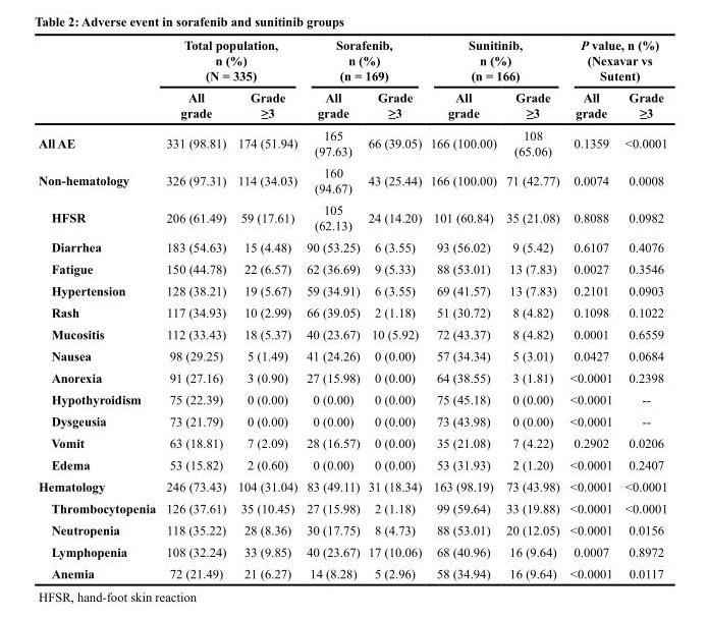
<table><thead><tr><td rowspan="2"></td><td colspan="2">Total population, n (%) (N = 335)</td><td colspan="2">Sorafenib, n (%) (n = 169)</td><td colspan="2">Sunitinib, n (%) (n = 166)</td><td colspan="2">P value, n (%) (Nexavar vs Sutent)</td></tr><tr><td>All grade</td><td>Grade ≥3</td><td>All grade</td><td>Grade ≥3</td><td>All grade</td><td>Grade ≥3</td><td>All grade</td><td>Grade ≥3</td></tr></thead><tbody><tr><td>All AE</td><td>331 (98.81)</td><td>174 (51.94)</td><td>165 (97.63)</td><td>66 (39.05)</td><td>166 (100.00)</td><td>108 (65.06)</td><td>0.1359</td><td>&lt;0.0001</td></tr><tr><td>Non-hematology</td><td>326 (97.31)</td><td>114 (34.03)</td><td>160 (94.67)</td><td>43 (25.44)</td><td>166 (100.00)</td><td>71 (42.77)</td><td>0.0074</td><td>0.0008</td></tr><tr><td>HFSR</td><td>206 (61.49)</td><td>59 (17.61)</td><td>105 (62.13)</td><td>24 (14.20)</td><td>101 (60.84)</td><td>35 (21.08)</td><td>0.8088</td><td>0.0982</td></tr><tr><td>Diarrhea</td><td>183 (54.63)</td><td>15 (4.48)</td><td>90 (53.25)</td><td>6 (3.55)</td><td>93 (56.02)</td><td>9 (5.42)</td><td>0.6107</td><td>0.4076</td></tr><tr><td>Fatigue</td><td>150 (44.78)</td><td>22 (6.57)</td><td>62 (36.69)</td><td>9 (5.33)</td><td>88 (53.01)</td><td>13 (7.83)</td><td>0.0027</td><td>0.3546</td></tr><tr><td>Hypertension</td><td>128 (38.21)</td><td>19 (5.67)</td><td>59 (34.91)</td><td>6 (3.55)</td><td>69 (41.57)</td><td>13 (7.83)</td><td>0.2101</td><td>0.0903</td></tr><tr><td>Rash</td><td>117 (34.93)</td><td>10 (2.99)</td><td>66 (39.05)</td><td>2 (1.18)</td><td>51 (30.72)</td><td>8 (4.82)</td><td>0.1098</td><td>0.1022</td></tr><tr><td>Mucositis</td><td>112 (33.43)</td><td>18 (5.37)</td><td>40 (23.67)</td><td>10 (5.92)</td><td>72 (43.37)</td><td>8 (4.82)</td><td>0.0001</td><td>0.6559</td></tr><tr><td>Nausea</td><td>98 (29.25)</td><td>5 (1.49)</td><td>41 (24.26)</td><td>0 (0.00)</td><td>57 (34.34)</td><td>5 (3.01)</td><td>0.0427</td><td>0.0684</td></tr><tr><td>Anorexia</td><td>91 (27.16)</td><td>3 (0.90)</td><td>27 (15.98)</td><td>0 (0.00)</td><td>64 (38.55)</td><td>3 (1.81)</td><td>&lt;0.0001</td><td>0.2398</td></tr><tr><td>Hypothyroidism</td><td>75 (22.39)</td><td>0 (0.00)</td><td>0 (0.00)</td><td>0 (0.00)</td><td>75 (45.18)</td><td>0 (0.00)</td><td>&lt;0.0001</td><td>--</td></tr><tr><td>Dysgeusia</td><td>73 (21.79)</td><td>0 (0.00)</td><td>0 (0.00)</td><td>0 (0.00)</td><td>73 (43.98)</td><td>0 (0.00)</td><td>&lt;0.0001</td><td>--</td></tr><tr><td>Vomit</td><td>63 (18.81)</td><td>7 (2.09)</td><td>28 (16.57)</td><td>0 (0.00)</td><td>35 (21.08)</td><td>7 (4.22)</td><td>0.2902</td><td>0.0206</td></tr><tr><td>Edema</td><td>53 (15.82)</td><td>2 (0.60)</td><td>0 (0.00)</td><td>0 (0.00)</td><td>53 (31.93)</td><td>2 (1.20)</td><td>&lt;0.0001</td><td>0.2407</td></tr><tr><td>Hematology</td><td>246 (73.43)</td><td>104 (31.04)</td><td>83 (49.11)</td><td>31 (18.34)</td><td>163 (98.19)</td><td>73 (43.98)</td><td>&lt;0.0001</td><td>&lt;0.0001</td></tr><tr><td>Thrombocytopenia</td><td>126 (37.61)</td><td>35 (10.45)</td><td>27 (15.98)</td><td>2 (1.18)</td><td>99 (59.64)</td><td>33 (19.88)</td><td>&lt;0.0001</td><td>&lt;0.0001</td></tr><tr><td>Neutropenia</td><td>118 (35.22)</td><td>28 (8.36)</td><td>30 (17.75)</td><td>8 (4.73)</td><td>88 (53.01)</td><td>20 (12.05)</td><td>&lt;0.0001</td><td>0.0156</td></tr><tr><td>Lymphopenia</td><td>108 (32.24)</td><td>33 (9.85)</td><td>40 (23.67)</td><td>17 (10.06)</td><td>68 (40.96)</td><td>16 (9.64)</td><td>0.0007</td><td>0.8972</td></tr><tr><td>Anemia</td><td>72 (21.49)</td><td>21 (6.27)</td><td>14 (8.28)</td><td>5 (2.96)</td><td>58 (34.94)</td><td>16 (9.64)</td><td>&lt;0.0001</td><td>0.0117</td></tr></tbody></table>